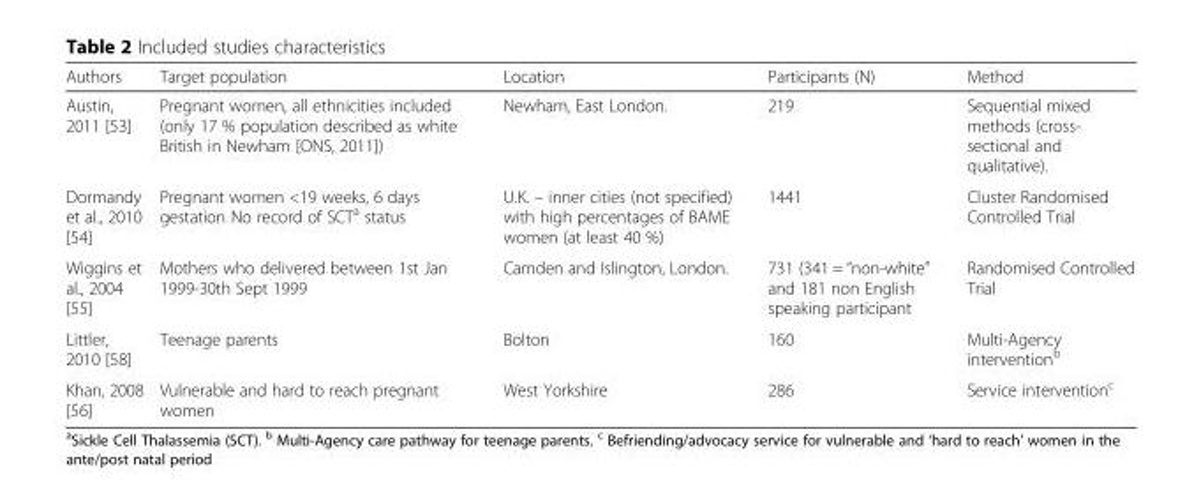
<table><thead><tr><td>Authors</td><td>Target population</td><td>Location</td><td>Participants (N)</td><td>Method</td></tr></thead><tbody><tr><td>Austin, 2011 [53]</td><td>Pregnant women, all ethnicities included (only 17 % population described as white British in Newham [ONS, 2011])</td><td>Newham, East London.</td><td>219</td><td>Sequential mixed methods (cross- sectional and qualitative).</td></tr><tr><td>Dormandy et al., 2010 [54]</td><td>Pregnant women &lt;19 weeks, 6 days gestation No record of SCT<sup>a</sup> status</td><td>U.K. – inner cities (not specified) with high percentages of BAME women (at least 40 %)</td><td>1441</td><td>Cluster Randomised Controlled Trial</td></tr><tr><td>Wiggins et al., 2004 [55]</td><td>Mothers who delivered between 1st Jan 1999-30th Sept 1999</td><td>Camden and Islington, London.</td><td>731 (341 = “non-white” and 181 non English speaking participant</td><td>Randomised Controlled Trial</td></tr><tr><td>Littler, 2010 [58]</td><td>Teenage parents</td><td>Bolton</td><td>160</td><td>Multi-Agency intervention<sup>b</sup></td></tr><tr><td>Khan, 2008 [56]</td><td>Vulnerable and hard to reach pregnant women</td><td>West Yorkshire</td><td>286</td><td>Service intervention<sup>c</sup></td></tr></tbody></table>